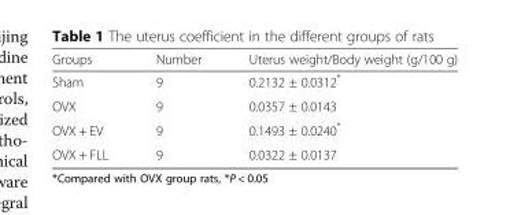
<table><thead><tr><td>Groups</td><td>Number</td><td>Uterus weight/Body weight (g/100 g)</td></tr></thead><tbody><tr><td>Sham</td><td>9</td><td>0.2132 ± 0.0312*</td></tr><tr><td>OVX</td><td>9</td><td>0.0357 ± 0.0143</td></tr><tr><td>OVX + EV</td><td>9</td><td>0.1493 ± 0.0240*</td></tr><tr><td>OVX + FLL</td><td>9</td><td>0.0322 ± 0.0137</td></tr></tbody></table>